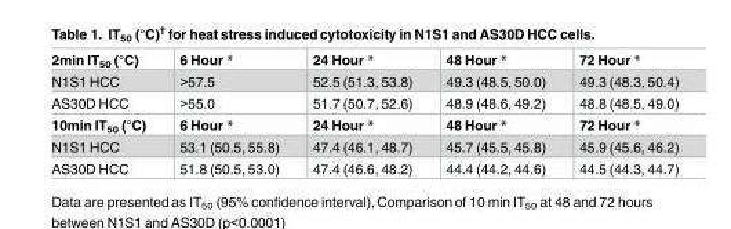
<table><tbody><tr><td>2min IT<sub>50</sub> (°C)</td><td>6 Hour *</td><td>24 Hour *</td><td>48 Hour *</td><td>72 Hour *</td></tr><tr><td>N1S1 HCC</td><td>&gt;57.5</td><td>52.5 (51.3, 53.8)</td><td>49.3 (48.5, 50.0)</td><td>49.3 (48.3, 50.4)</td></tr><tr><td>AS30D HCC</td><td>&gt;55.0</td><td>51.7 (50.7, 52.6)</td><td>48.9 (48.6, 49.2)</td><td>48.8 (48.5, 49.0)</td></tr><tr><td>10min IT<sub>50</sub> (°C)</td><td>6 Hour *</td><td>24 Hour *</td><td>48 Hour *</td><td>72 Hour *</td></tr><tr><td>N1S1 HCC</td><td>53.1 (50.5, 55.8)</td><td>47.4 (46.1, 48.7)</td><td>45.7 (45.5, 45.8)</td><td>45.9 (45.6, 46.2)</td></tr><tr><td>AS30D HCC</td><td>51.8 (50.5, 53.0)</td><td>47.4 (46.6, 48.2)</td><td>44.4 (44.2, 44.6)</td><td>44.5 (44.3, 44.7)</td></tr></tbody></table>